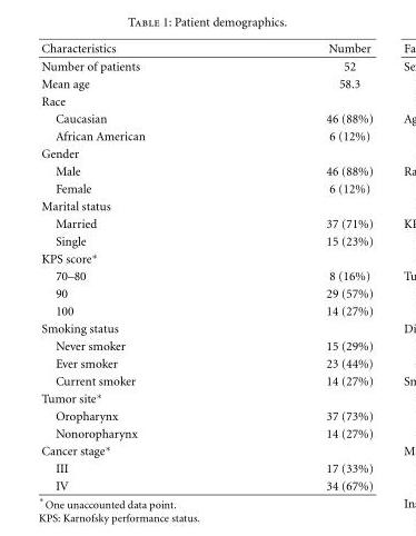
<table><thead><tr><td>Characteristics</td><td>Number</td></tr></thead><tbody><tr><td>Number of patients</td><td>52</td></tr><tr><td>Mean age</td><td>58.3</td></tr><tr><td colspan="2">Race</td></tr><tr><td>Caucasian</td><td>46 (88%)</td></tr><tr><td>African American</td><td>6 (12%)</td></tr><tr><td colspan="2">Gender</td></tr><tr><td>Male</td><td>46 (88%)</td></tr><tr><td>Female</td><td>6 (12%)</td></tr><tr><td colspan="2">Marital status</td></tr><tr><td>Married</td><td>37 (71%)</td></tr><tr><td>Single</td><td>15 (23%)</td></tr><tr><td colspan="2">KPS score∗</td></tr><tr><td>70–80</td><td>8 (16%)</td></tr><tr><td>90</td><td>29 (57%)</td></tr><tr><td>100</td><td>14 (27%)</td></tr><tr><td colspan="2">Smoking status</td></tr><tr><td>Never smoker</td><td>15 (29%)</td></tr><tr><td>Ever smoker</td><td>23 (44%)</td></tr><tr><td>Current smoker</td><td>14 (27%)</td></tr><tr><td colspan="2">Tumor site∗</td></tr><tr><td>Oropharynx</td><td>37 (73%)</td></tr><tr><td>Nonoropharynx</td><td>14 (27%)</td></tr><tr><td colspan="2">Cancer stage∗</td></tr><tr><td>III</td><td>17 (33%)</td></tr><tr><td>IV</td><td>34 (67%)</td></tr></tbody></table>